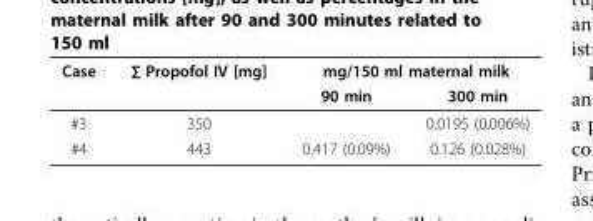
<table><thead><tr><td rowspan="2">Case</td><td rowspan="2">∑ Propofol IV [mg]</td><td colspan="2">mg/150 ml maternal milk</td></tr><tr><td>90 min</td><td>300 min</td></tr></thead><tbody><tr><td>#3</td><td>350</td><td></td><td>0.0195 (0.006%)</td></tr><tr><td>#4</td><td>443</td><td>0.417 (0.09%)</td><td>0.126 (0.028%)</td></tr></tbody></table>